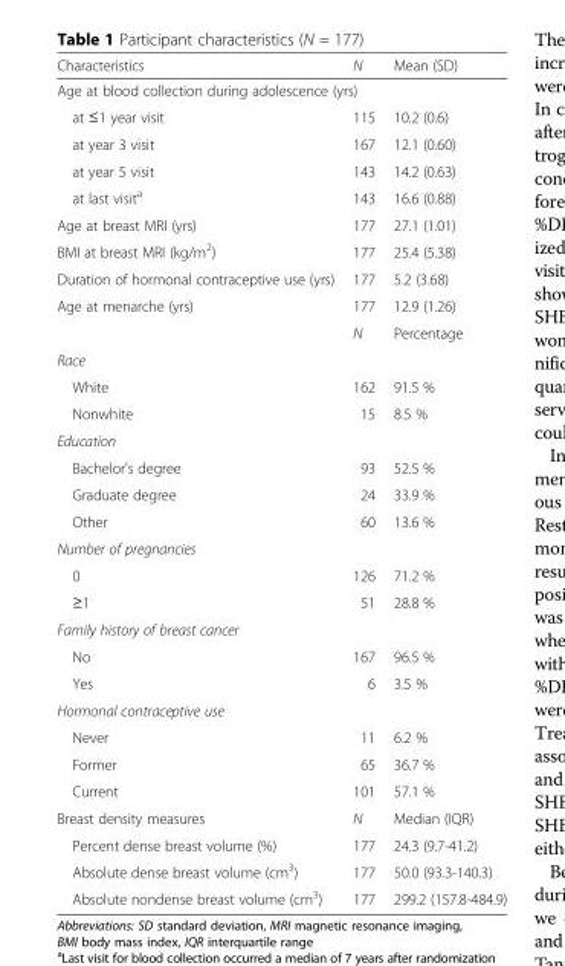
<table><thead><tr><td>Characteristics</td><td>N</td><td>Mean (SD)</td></tr></thead><tbody><tr><td colspan="3">Age at blood collection during adolescence (yrs)</td></tr><tr><td>at ≤1 year visit</td><td>115</td><td>10.2 (0.6)</td></tr><tr><td>at year 3 visit</td><td>167</td><td>12.1 (0.60)</td></tr><tr><td>at year 5 visit</td><td>143</td><td>14.2 (0.63)</td></tr><tr><td>at last visit<sup>a</sup></td><td>143</td><td>16.6 (0.88)</td></tr><tr><td>Age at breast MRI (yrs)</td><td>177</td><td>27.1 (1.01)</td></tr><tr><td>BMI at breast MRI (kg/m<sup>2</sup>)</td><td>177</td><td>25.4 (5.38)</td></tr><tr><td>Duration of hormonal contraceptive use (yrs)</td><td>177</td><td>5.2 (3.68)</td></tr><tr><td rowspan="2">Age at menarche (yrs)</td><td>177</td><td>12.9 (1.26)</td></tr><tr><td>N</td><td>Percentage</td></tr><tr><td colspan="3">Race</td></tr><tr><td>White</td><td>162</td><td>91.5 %</td></tr><tr><td>Nonwhite</td><td>15</td><td>8.5 %</td></tr><tr><td colspan="3">Education</td></tr><tr><td>Bachelor&#x27;s degree</td><td>93</td><td>52.5 %</td></tr><tr><td>Graduate degree</td><td>24</td><td>33.9 %</td></tr><tr><td>Other</td><td>60</td><td>13.6 %</td></tr><tr><td colspan="3">Number of pregnancies</td></tr><tr><td>0</td><td>126</td><td>71.2 %</td></tr><tr><td>≥1</td><td>51</td><td>28.8 %</td></tr><tr><td colspan="3">Family history of breast cancer</td></tr><tr><td>No</td><td>167</td><td>96.5 %</td></tr><tr><td>Yes</td><td>6</td><td>3.5 %</td></tr><tr><td colspan="3">Hormonal contraceptive use</td></tr><tr><td>Never</td><td>11</td><td>6.2 %</td></tr><tr><td>Former</td><td>65</td><td>36.7 %</td></tr><tr><td>Current</td><td>101</td><td>57.1 %</td></tr><tr><td>Breast density measures</td><td>N</td><td>Median (IQR)</td></tr><tr><td>Percent dense breast volume (%)</td><td>177</td><td>24.3 (9.7-41.2)</td></tr><tr><td>Absolute dense breast volume (cm<sup>3</sup>)</td><td>177</td><td>50.0 (93.3-140.3)</td></tr><tr><td>Absolute nondense breast volume (cm<sup>3</sup>)</td><td>177</td><td>299.2 (157.8-484.9)</td></tr></tbody></table>